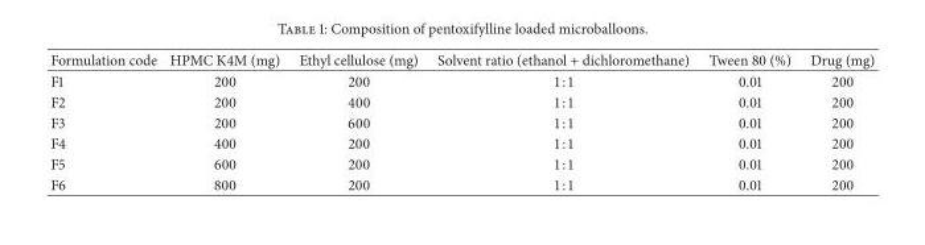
<table><thead><tr><td>Formulation code</td><td>HPMC K4M (mg)</td><td>Ethyl cellulose (mg)</td><td>Solvent ratio (ethanol + dichloromethane)</td><td>Tween 80 (%)</td><td>Drug (mg)</td></tr></thead><tbody><tr><td>F1</td><td>200</td><td>200</td><td>1 : 1</td><td>0.01</td><td>200</td></tr><tr><td>F2</td><td>200</td><td>400</td><td>1 : 1</td><td>0.01</td><td>200</td></tr><tr><td>F3</td><td>200</td><td>600</td><td>1 : 1</td><td>0.01</td><td>200</td></tr><tr><td>F4</td><td>400</td><td>200</td><td>1 : 1</td><td>0.01</td><td>200</td></tr><tr><td>F5</td><td>600</td><td>200</td><td>1 : 1</td><td>0.01</td><td>200</td></tr><tr><td>F6</td><td>800</td><td>200</td><td>1 : 1</td><td>0.01</td><td>200</td></tr></tbody></table>